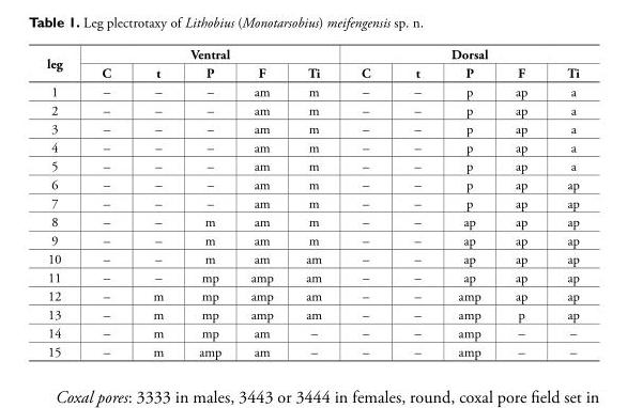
<table><thead><tr><td rowspan="2">leg</td><td colspan="5">Ventral</td><td colspan="5">Dorsal</td></tr><tr><td>C</td><td>t</td><td>P</td><td>F</td><td>Ti</td><td>C</td><td>t</td><td>P</td><td>F</td><td>Ti</td></tr></thead><tbody><tr><td>1</td><td>–</td><td>–</td><td>–</td><td>am</td><td>m</td><td>–</td><td>–</td><td>p</td><td>ap</td><td>a</td></tr><tr><td>2</td><td>–</td><td>–</td><td>–</td><td>am</td><td>m</td><td>–</td><td>–</td><td>p</td><td>ap</td><td>a</td></tr><tr><td>3</td><td>–</td><td>–</td><td>–</td><td>am</td><td>m</td><td>–</td><td>–</td><td>p</td><td>ap</td><td>a</td></tr><tr><td>4</td><td>–</td><td>–</td><td>–</td><td>am</td><td>m</td><td>–</td><td>–</td><td>p</td><td>ap</td><td>a</td></tr><tr><td>5</td><td>–</td><td>–</td><td>–</td><td>am</td><td>m</td><td>–</td><td>–</td><td>p</td><td>ap</td><td>a</td></tr><tr><td>6</td><td>–</td><td>–</td><td>–</td><td>am</td><td>m</td><td>–</td><td>–</td><td>p</td><td>ap</td><td>ap</td></tr><tr><td>7</td><td>–</td><td>–</td><td>–</td><td>am</td><td>m</td><td>–</td><td>–</td><td>p</td><td>ap</td><td>ap</td></tr><tr><td>8</td><td>–</td><td>–</td><td>m</td><td>am</td><td>m</td><td>–</td><td>–</td><td>ap</td><td>ap</td><td>ap</td></tr><tr><td>9</td><td>–</td><td>–</td><td>m</td><td>am</td><td>m</td><td>–</td><td>–</td><td>ap</td><td>ap</td><td>ap</td></tr><tr><td>10</td><td>–</td><td>–</td><td>m</td><td>am</td><td>am</td><td>–</td><td>–</td><td>ap</td><td>ap</td><td>ap</td></tr><tr><td>11</td><td>–</td><td>–</td><td>mp</td><td>amp</td><td>am</td><td>–</td><td>–</td><td>ap</td><td>ap</td><td>ap</td></tr><tr><td>12</td><td>–</td><td>m</td><td>mp</td><td>amp</td><td>am</td><td>–</td><td>–</td><td>amp</td><td>ap</td><td>ap</td></tr><tr><td>13</td><td>–</td><td>m</td><td>mp</td><td>amp</td><td>am</td><td>–</td><td>–</td><td>amp</td><td>p</td><td>ap</td></tr><tr><td>14</td><td>–</td><td>m</td><td>mp</td><td>am</td><td>–</td><td>–</td><td>–</td><td>amp</td><td>–</td><td>–</td></tr><tr><td>15</td><td>–</td><td>m</td><td>amp</td><td>am</td><td>–</td><td>–</td><td>–</td><td>amp</td><td>–</td><td>–</td></tr></tbody></table>